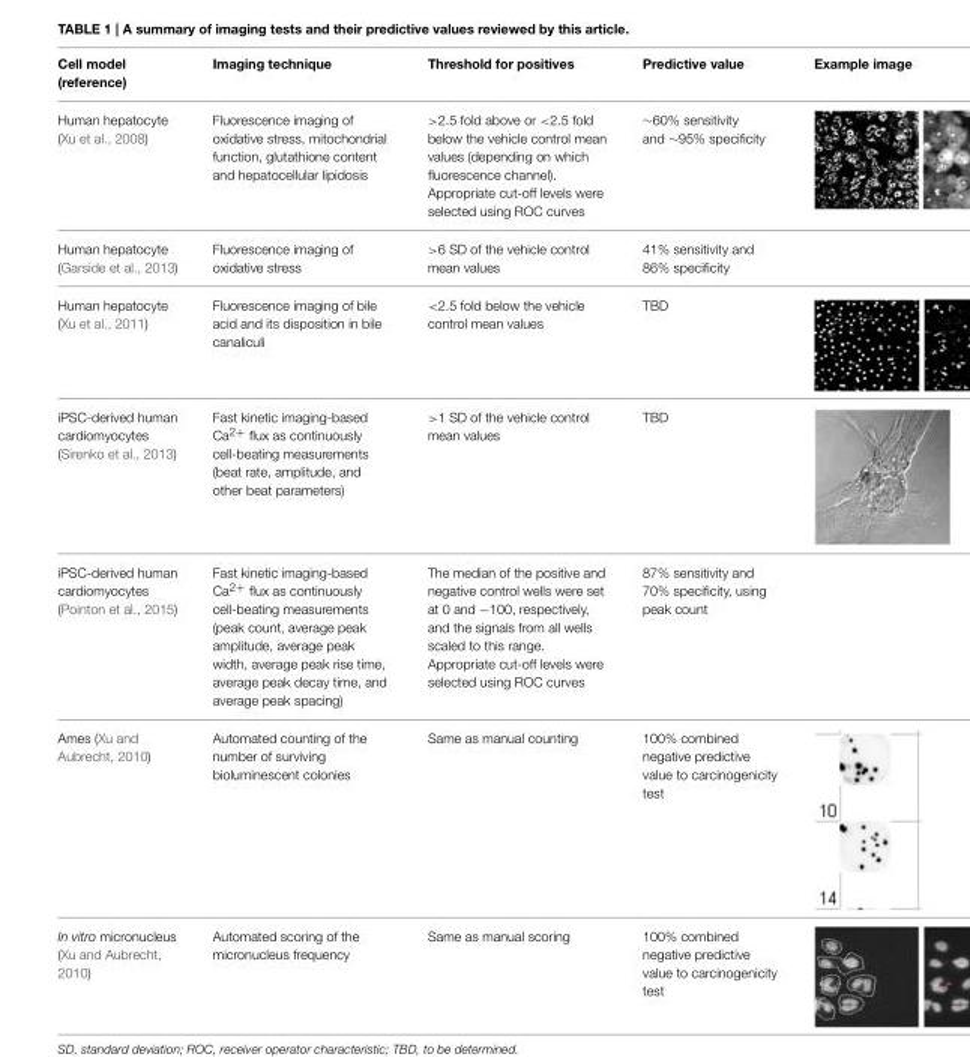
<table><thead><tr><td>Cell model (reference)</td><td>Imaging technique</td><td>Threshold for positives</td><td>Predictive value</td><td>Example image</td></tr></thead><tbody><tr><td>Human hepatocyte (Xu et al., 2008)</td><td>Fluorescence imaging of oxidative stress, mitochondrial function, glutathione content and hepatocellular lipidosis</td><td>&gt;2.5 fold above or &lt;2.5 fold below the vehicle control mean values (depending on which fluorescence channel). Appropriate cut-off levels were selected using ROC curves</td><td>∼60% sensitivity and ∼95% specificity</td><td></td></tr><tr><td>Human hepatocyte (Garside et al., 2013)</td><td>Fluorescence imaging of oxidative stress</td><td>&gt;6 SD of the vehicle control mean values</td><td>41% sensitivity and 86% specificity</td><td></td></tr><tr><td>Human hepatocyte (Xu et al., 2011)</td><td>Fluorescence imaging of bile acid and its disposition in bile canaliculi</td><td>&lt;2.5 fold below the vehicle control mean values</td><td>TBD</td><td></td></tr><tr><td>iPSC-derived human cardiomyocytes (Sirenko et al., 2013)</td><td>Fast kinetic imaging-based Ca<sup>2+</sup> flux as continuously cell-beating measurements (beat rate, amplitude, and other beat parameters)</td><td>&gt;1 SD of the vehicle control mean values</td><td>TBD</td><td></td></tr><tr><td>iPSC-derived human cardiomyocytes (Pointon et al., 2015)</td><td>Fast kinetic imaging-based Ca<sup>2+</sup> flux as continuously cell-beating measurements (peak count, average peak amplitude, average peak width, average peak rise time, average peak decay time, and average peak spacing)</td><td>The median of the positive and negative control wells were set at 0 and −100, respectively, and the signals from all wells scaled to this range. Appropriate cut-off levels were selected using ROC curves</td><td>87% sensitivity and 70% specificity, using peak count</td><td></td></tr><tr><td>Ames (Xu and Aubrecht, 2010)</td><td>Automated counting of the number of surviving bioluminescent colonies</td><td>Same as manual counting</td><td>100% combined negative predictive value to carcinogenicity test</td><td></td></tr><tr><td>In vitro micronucleus (Xu and Aubrecht, 2010)</td><td>Automated scoring of the micronucleus frequency</td><td>Same as manual scoring</td><td>100% combined negative predictive value to carcinogenicity test</td><td></td></tr></tbody></table>